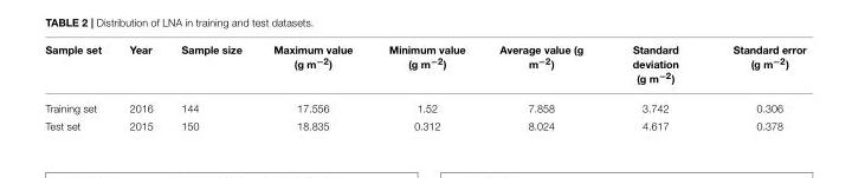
<table><thead><tr><td>Sample set</td><td>Year</td><td>Sample size</td><td>Maximum value (g m<sup>−2</sup>)</td><td>Minimum value (g m<sup>−2</sup>)</td><td>Average value (g m<sup>−2</sup>)</td><td>Standard deviation (g m<sup>−2</sup>)</td><td>Standard error (g m<sup>−2</sup>)</td></tr></thead><tbody><tr><td>Training set</td><td>2016</td><td>144</td><td>17.556</td><td>1.52</td><td>7.858</td><td>3.742</td><td>0.306</td></tr><tr><td>Test set</td><td>2015</td><td>150</td><td>18.835</td><td>0.312</td><td>8.024</td><td>4.617</td><td>0.378</td></tr></tbody></table>